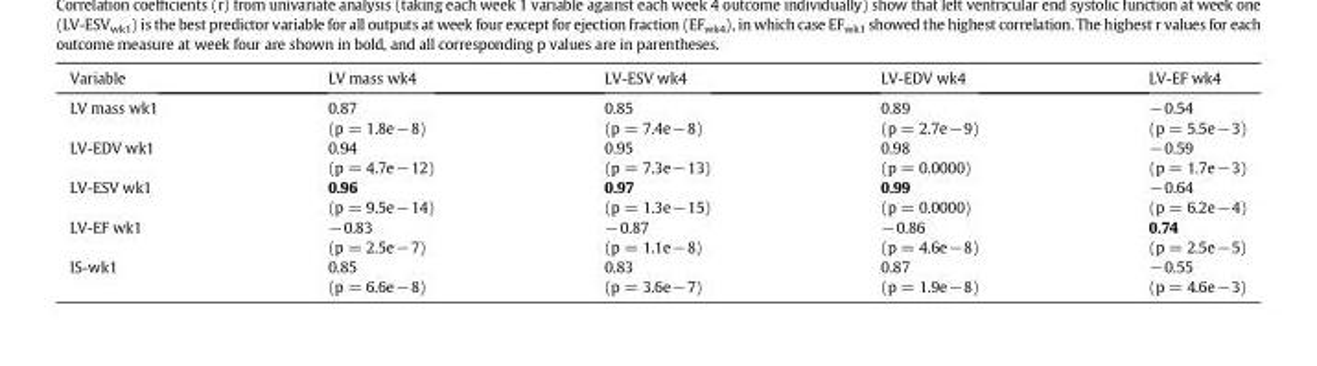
<table><thead><tr><td>Variable</td><td>LV mass wk4</td><td>LV-ESV wk4</td><td>LV-EDV wk4</td><td>LV-EF wk4</td></tr></thead><tbody><tr><td>LV mass wk1</td><td>0.87 (p = 1.8e−8)</td><td>0.85 (p = 7.4e−8)</td><td>0.89 (p = 2.7e−9)</td><td>−0.54 (p = 5.5e−3)</td></tr><tr><td>LV-EDV wk1</td><td>0.94 (p = 4.7e−12)</td><td>0.95 (p = 7.3e−13)</td><td>0.98 (p = 0.0000)</td><td>−0.59 (p = 1.7e−3)</td></tr><tr><td>LV-ESV wk1</td><td>0.96 (p = 9.5e−14)</td><td>0.97 (p = 1.3e−15)</td><td>0.99 (p = 0.0000)</td><td>−0.64 (p = 6.2e−4)</td></tr><tr><td>LV-EF wk1</td><td>−0.83 (p = 2.5e−7)</td><td>−0.87 (p = 1.1e−8)</td><td>−0.86 (p = 4.6e−8)</td><td>0.74 (p = 2.5e−5)</td></tr><tr><td>IS-wk1</td><td>0.85 (p = 6.6e−8)</td><td>0.83 (p = 3.6e−7)</td><td>0.87 (p = 1.9e−8)</td><td>−0.55 (p = 4.6e−3)</td></tr></tbody></table>